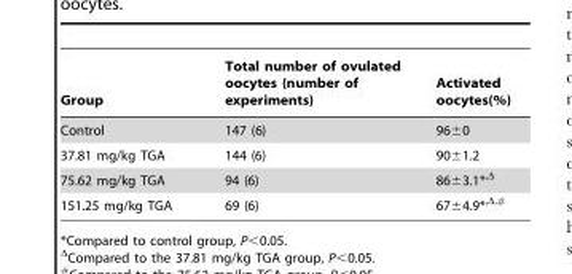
<table><thead><tr><td>Group</td><td>Total number of ovulated oocytes (number of experiments)</td><td>Activated oocytes(%)</td></tr></thead><tbody><tr><td>Control</td><td>147 (6)</td><td>96±0</td></tr><tr><td>37.81 mg/kg TGA</td><td>144 (6)</td><td>90±1.2</td></tr><tr><td>75.62 mg/kg TGA</td><td>94 (6)</td><td>86±3.1*<sup>,</sup>Δ</td></tr><tr><td>151.25 mg/kg TGA</td><td>69 (6)</td><td>67±4.9*<sup>,</sup>Δ<sup>,</sup>#</td></tr></tbody></table>